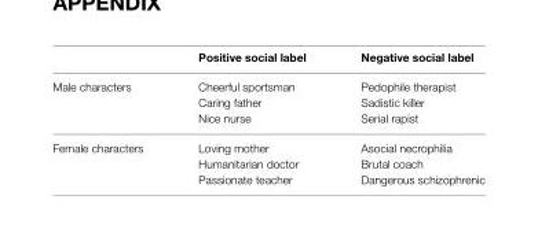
<table><thead><tr><td></td><td>Positive social label</td><td>Negative social label</td></tr></thead><tbody><tr><td rowspan="3">Male characters</td><td>Cheerful sportsman</td><td>Pedophile therapist</td></tr><tr><td>Caring father</td><td>Sadistic killer</td></tr><tr><td>Nice nurse</td><td>Serial rapist</td></tr><tr><td rowspan="3">Female characters</td><td>Loving mother</td><td>Asocial necrophilia</td></tr><tr><td>Humanitarian doctor</td><td>Brutal coach</td></tr><tr><td>Passionate teacher</td><td>Dangerous schizophrenic</td></tr></tbody></table>